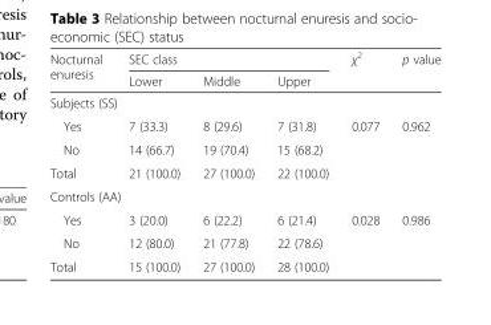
<table><thead><tr><td rowspan="2">Nocturnal enuresis</td><td colspan="3">SEC class</td><td rowspan="2">χ<sup>2</sup></td><td rowspan="2">p value</td></tr><tr><td>Lower</td><td>Middle</td><td>Upper</td></tr></thead><tbody><tr><td colspan="6">Subjects (SS)</td></tr><tr><td>Yes</td><td>7 (33.3)</td><td>8 (29.6)</td><td>7 (31.8)</td><td>0.077</td><td>0.962</td></tr><tr><td>No</td><td>14 (66.7)</td><td>19 (70.4)</td><td>15 (68.2)</td><td></td><td></td></tr><tr><td>Total</td><td>21 (100.0)</td><td>27 (100.0)</td><td>22 (100.0)</td><td></td><td></td></tr><tr><td colspan="6">Controls (AA)</td></tr><tr><td>Yes</td><td>3 (20.0)</td><td>6 (22.2)</td><td>6 (21.4)</td><td>0.028</td><td>0.986</td></tr><tr><td>No</td><td>12 (80.0)</td><td>21 (77.8)</td><td>22 (78.6)</td><td></td><td></td></tr><tr><td>Total</td><td>15 (100.0)</td><td>27 (100.0)</td><td>28 (100.0)</td><td></td><td></td></tr></tbody></table>